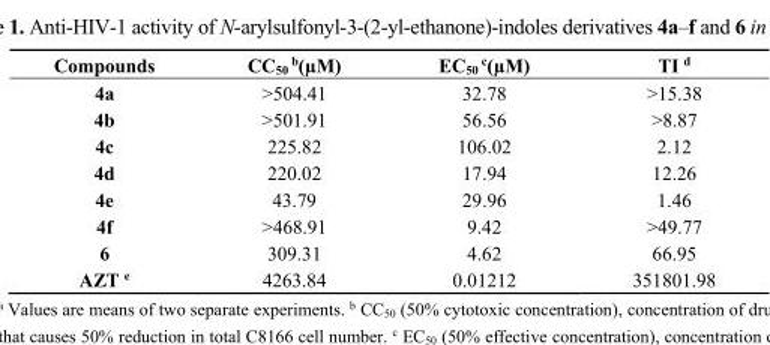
<table><thead><tr><td>Compounds</td><td>CC<sub>50</sub> <sup>b</sup>(µM)</td><td>EC<sub>50</sub> <sup>c</sup>(µM)</td><td>TI <sup>d</sup></td></tr></thead><tbody><tr><td>4a</td><td>&gt;504.41</td><td>32.78</td><td>&gt;15.38</td></tr><tr><td>4b</td><td>&gt;501.91</td><td>56.56</td><td>&gt;8.87</td></tr><tr><td>4c</td><td>225.82</td><td>106.02</td><td>2.12</td></tr><tr><td>4d</td><td>220.02</td><td>17.94</td><td>12.26</td></tr><tr><td>4e</td><td>43.79</td><td>29.96</td><td>1.46</td></tr><tr><td>4f</td><td>&gt;468.91</td><td>9.42</td><td>&gt;49.77</td></tr><tr><td>6</td><td>309.31</td><td>4.62</td><td>66.95</td></tr><tr><td>AZT <sup>e</sup></td><td>4263.84</td><td>0.01212</td><td>351801.98</td></tr></tbody></table>